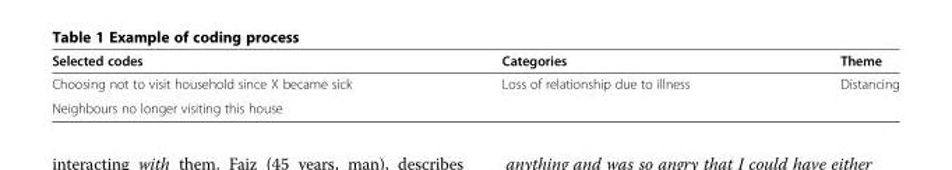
<table><thead><tr><td>Selected codes</td><td>Categories</td><td>Theme</td></tr></thead><tbody><tr><td>Choosing not to visit household since X became sick</td><td>Loss of relationship due to illness</td><td>Distancing</td></tr><tr><td>Neighbours no longer visiting this house</td><td></td><td></td></tr></tbody></table>